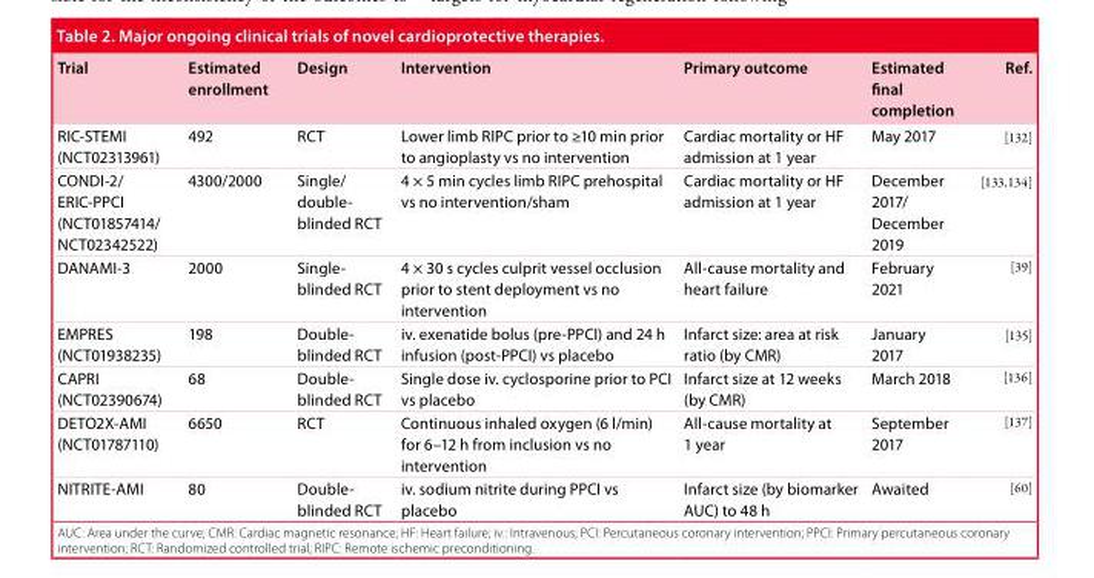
<table><thead><tr><td>Trial</td><td>Estimated enrollment</td><td>Design</td><td>Intervention</td><td>Primary outcome</td><td>Estimated final completion</td><td>Ref.</td></tr></thead><tbody><tr><td>RIC-STEMI (NCT02313961)</td><td>492</td><td>RCT</td><td>Lower limb RIPC prior to ≥10 min prior to angioplasty vs no intervention</td><td>Cardiac mortality or HF admission at 1 year</td><td>May 2017</td><td>[132]</td></tr><tr><td>CONDI-2/ ERIC-PPCI (NCT01857414/ NCT02342522)</td><td>4300/2000</td><td>Single/ double- blinded RCT</td><td>4 × 5 min cycles limb RIPC prehospital vs no intervention/sham</td><td>Cardiac mortality or HF admission at 1 year</td><td>December 2017/ December 2019</td><td>[133,134]</td></tr><tr><td>DANAMI-3</td><td>2000</td><td>Single- blinded RCT</td><td>4 × 30 s cycles culprit vessel occlusion prior to stent deployment vs no intervention</td><td>All-cause mortality and heart failure</td><td>February 2021</td><td>[39]</td></tr><tr><td>EMPRES (NCT01938235)</td><td>198</td><td>Double- blinded RCT</td><td>iv. exenatide bolus (pre-PPCI) and 24 h infusion (post-PPCI) vs placebo</td><td>Infarct size: area at risk ratio (by CMR)</td><td>January 2017</td><td>[135]</td></tr><tr><td>CAPRI (NCT02390674)</td><td>68</td><td>Double- blinded RCT</td><td>Single dose iv. cyclosporine prior to PCI vs placebo</td><td>Infarct size at 12 weeks (by CMR)</td><td>March 2018</td><td>[136]</td></tr><tr><td>DETO2X-AMI (NCT01787110)</td><td>6650</td><td>RCT</td><td>Continuous inhaled oxygen (6 l/min) for 6–12 h from inclusion vs no intervention</td><td>All-cause mortality at 1 year</td><td>September 2017</td><td>[137]</td></tr><tr><td>NITRITE-AMI</td><td>80</td><td>Double- blinded RCT</td><td>iv. sodium nitrite during PPCI vs placebo</td><td>Infarct size (by biomarker AUC) to 48 h</td><td>Awaited</td><td>[60]</td></tr></tbody></table>